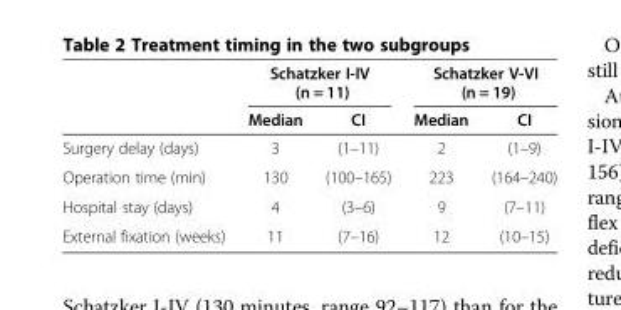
<table><thead><tr><td rowspan="2"></td><td colspan="2">Schatzker I-IV (n = 11)</td><td colspan="2">Schatzker V-VI (n = 19)</td></tr><tr><td>Median</td><td>CI</td><td>Median</td><td>CI</td></tr></thead><tbody><tr><td>Surgery delay (days)</td><td>3</td><td>(1–11)</td><td>2</td><td>(1–9)</td></tr><tr><td>Operation time (min)</td><td>130</td><td>(100–165)</td><td>223</td><td>(164–240)</td></tr><tr><td>Hospital stay (days)</td><td>4</td><td>(3–6)</td><td>9</td><td>(7–11)</td></tr><tr><td>External fixation (weeks)</td><td>11</td><td>(7–16)</td><td>12</td><td>(10–15)</td></tr></tbody></table>